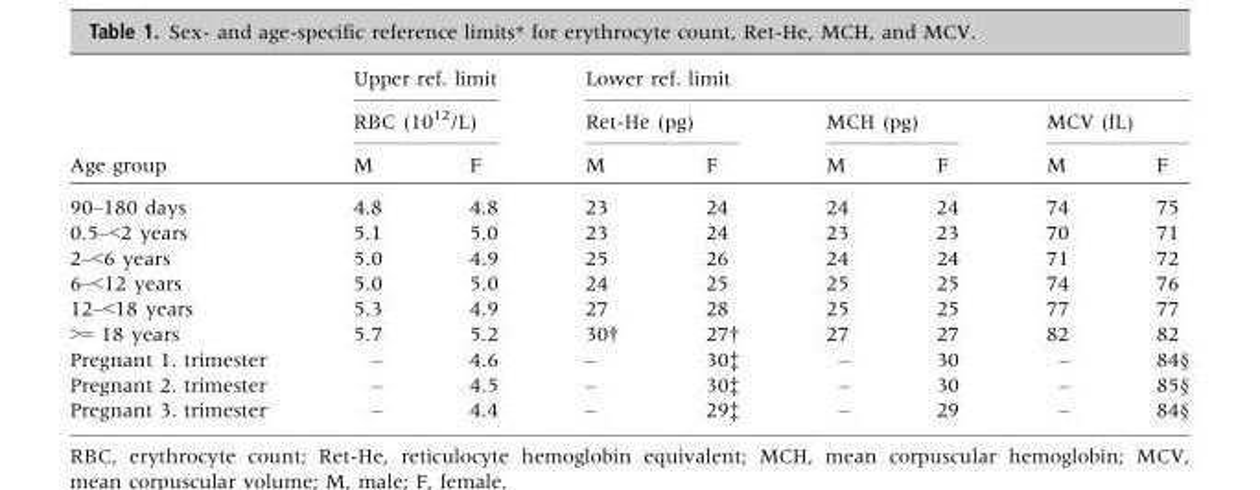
<table><thead><tr><td rowspan="3">Age group</td><td rowspan="2" colspan="2">Upper ref. limit RBC (10<sup>12</sup>/L)</td><td colspan="6">Lower ref. limit</td></tr><tr><td colspan="2">Ret-He (pg)</td><td colspan="2">MCH (pg)</td><td colspan="2">MCV (fL)</td></tr><tr><td>M</td><td>F</td><td>M</td><td>F</td><td>M</td><td>F</td><td>M</td><td>F</td></tr></thead><tbody><tr><td>90–180 days</td><td>4.8</td><td>4.8</td><td>23</td><td>24</td><td>24</td><td>24</td><td>74</td><td>75</td></tr><tr><td>0.5–&lt;2 years</td><td>5.1</td><td>5.0</td><td>23</td><td>24</td><td>23</td><td>23</td><td>70</td><td>71</td></tr><tr><td>2–&lt;6 years</td><td>5.0</td><td>4.9</td><td>25</td><td>26</td><td>24</td><td>24</td><td>71</td><td>72</td></tr><tr><td>6–&lt;12 years</td><td>5.0</td><td>5.0</td><td>24</td><td>25</td><td>25</td><td>25</td><td>74</td><td>76</td></tr><tr><td>12–&lt;18 years</td><td>5.3</td><td>4.9</td><td>27</td><td>28</td><td>25</td><td>25</td><td>77</td><td>77</td></tr><tr><td>&gt;= 18 years</td><td>5.7</td><td>5.2</td><td>30†</td><td>27†</td><td>27</td><td>27</td><td>82</td><td>82</td></tr><tr><td>Pregnant 1. trimester</td><td>–</td><td>4.6</td><td>–</td><td>30‡</td><td>–</td><td>30</td><td>–</td><td>84§</td></tr><tr><td>Pregnant 2. trimester</td><td>–</td><td>4.5</td><td>–</td><td>30‡</td><td>–</td><td>30</td><td>–</td><td>85§</td></tr><tr><td>Pregnant 3. trimester</td><td>–</td><td>4.4</td><td>–</td><td>29‡</td><td>–</td><td>29</td><td>–</td><td>84§</td></tr></tbody></table>